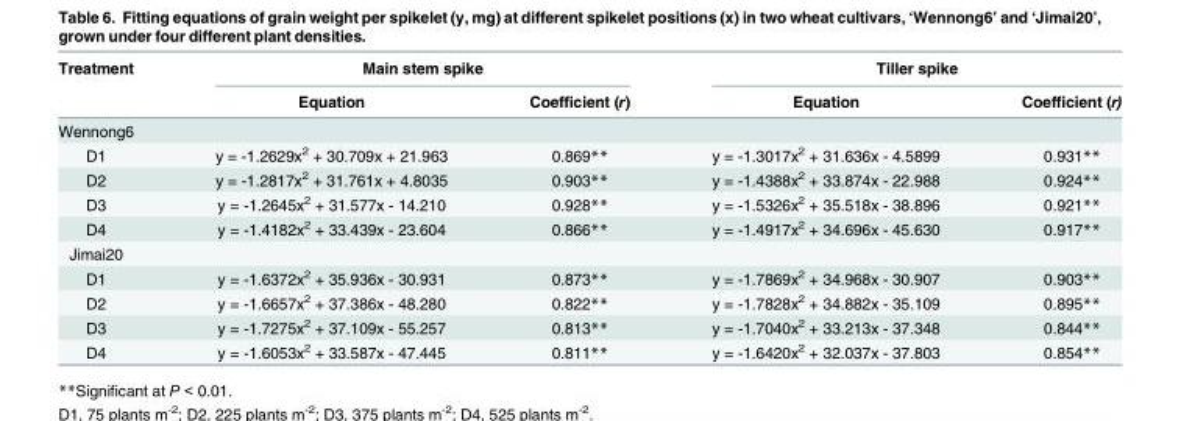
<table><thead><tr><td rowspan="2">Treatment</td><td colspan="2">Main stem spike</td><td colspan="2">Tiller spike</td></tr><tr><td>Equation</td><td>Coefficient (r)</td><td>Equation</td><td>Coefficient (r)</td></tr></thead><tbody><tr><td colspan="5">Wennong6</td></tr><tr><td>D1</td><td>y = -1.2629x<sup>2</sup> + 30.709x + 21.963</td><td>0.869**</td><td>y = -1.3017x<sup>2</sup> + 31.636x - 4.5899</td><td>0.931**</td></tr><tr><td>D2</td><td>y = -1.2817x<sup>2</sup> + 31.761x + 4.8035</td><td>0.903**</td><td>y = -1.4388x<sup>2</sup> + 33.874x - 22.988</td><td>0.924**</td></tr><tr><td>D3</td><td>y = -1.2645x<sup>2</sup> + 31.577x - 14.210</td><td>0.928**</td><td>y = -1.5326x<sup>2</sup> + 35.518x - 38.896</td><td>0.921**</td></tr><tr><td>D4</td><td>y = -1.4182x<sup>2</sup> + 33.439x - 23.604</td><td>0.866**</td><td>y = -1.4917x<sup>2</sup> + 34.696x - 45.630</td><td>0.917**</td></tr><tr><td colspan="5">Jimai20</td></tr><tr><td>D1</td><td>y = -1.6372x<sup>2</sup> + 35.936x - 30.931</td><td>0.873**</td><td>y = -1.7869x<sup>2</sup> + 34.968x - 30.907</td><td>0.903**</td></tr><tr><td>D2</td><td>y = -1.6657x<sup>2</sup> + 37.386x - 48.280</td><td>0.822**</td><td>y = -1.7828x<sup>2</sup> + 34.882x - 35.109</td><td>0.895**</td></tr><tr><td>D3</td><td>y = -1.7275x<sup>2</sup> + 37.109x - 55.257</td><td>0.813**</td><td>y = -1.7040x<sup>2</sup> + 33.213x - 37.348</td><td>0.844**</td></tr><tr><td>D4</td><td>y = -1.6053x<sup>2</sup> + 33.587x - 47.445</td><td>0.811**</td><td>y = -1.6420x<sup>2</sup> + 32.037x - 37.803</td><td>0.854**</td></tr></tbody></table>